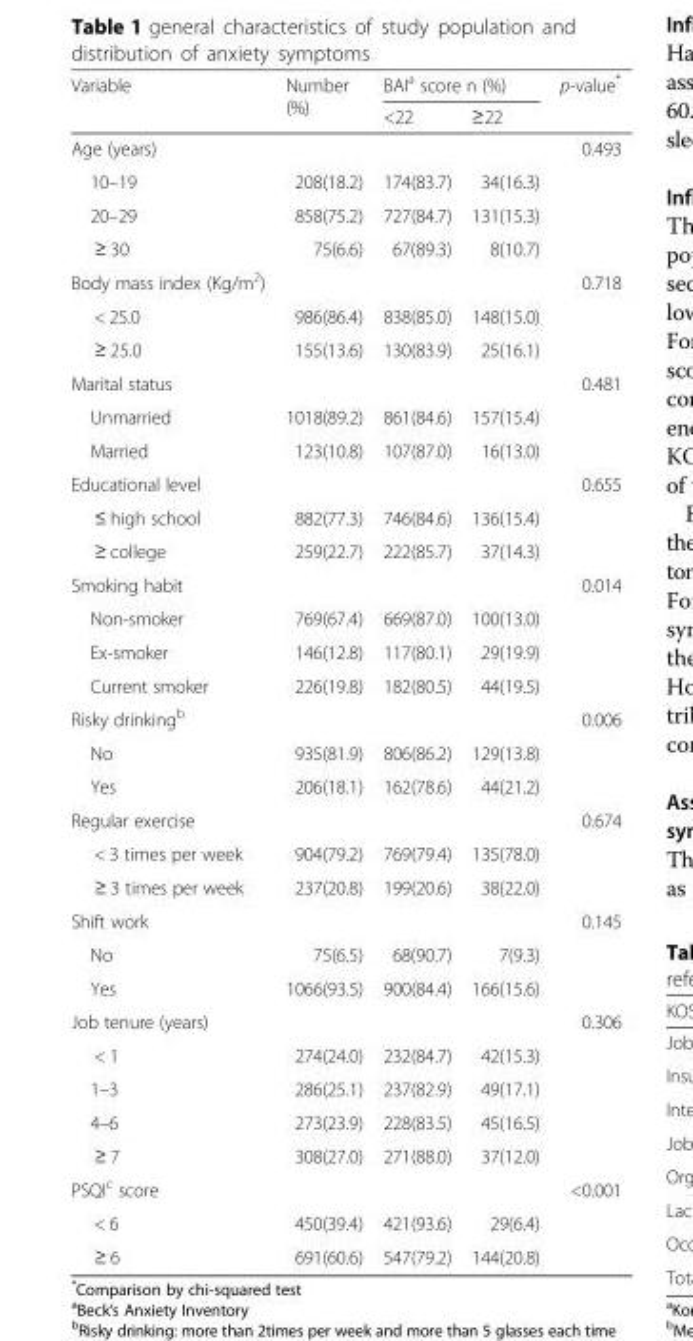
<table><thead><tr><td rowspan="2">Variable</td><td rowspan="2">Number (%)</td><td colspan="2">BAI<sup>a</sup> score n (%)</td><td rowspan="2">p-value*</td></tr><tr><td>&lt;22</td><td>≥22</td></tr></thead><tbody><tr><td>Age (years)</td><td></td><td></td><td></td><td>0.493</td></tr><tr><td>10–19</td><td>208(18.2)</td><td>174(83.7)</td><td>34(16.3)</td><td></td></tr><tr><td>20–29</td><td>858(75.2)</td><td>727(84.7)</td><td>131(15.3)</td><td></td></tr><tr><td>≥ 30</td><td>75(6.6)</td><td>67(89.3)</td><td>8(10.7)</td><td></td></tr><tr><td>Body mass index (Kg/m<sup>2</sup>)</td><td></td><td></td><td></td><td>0.718</td></tr><tr><td>&lt; 25.0</td><td>986(86.4)</td><td>838(85.0)</td><td>148(15.0)</td><td></td></tr><tr><td>≥ 25.0</td><td>155(13.6)</td><td>130(83.9)</td><td>25(16.1)</td><td></td></tr><tr><td>Marital status</td><td></td><td></td><td></td><td>0.481</td></tr><tr><td>Unmarried</td><td>1018(89.2)</td><td>861(84.6)</td><td>157(15.4)</td><td></td></tr><tr><td>Married</td><td>123(10.8)</td><td>107(87.0)</td><td>16(13.0)</td><td></td></tr><tr><td>Educational level</td><td></td><td></td><td></td><td>0.655</td></tr><tr><td>≤ high school</td><td>882(77.3)</td><td>746(84.6)</td><td>136(15.4)</td><td></td></tr><tr><td>≥ college</td><td>259(22.7)</td><td>222(85.7)</td><td>37(14.3)</td><td></td></tr><tr><td>Smoking habit</td><td></td><td></td><td></td><td>0.014</td></tr><tr><td>Non-smoker</td><td>769(67.4)</td><td>669(87.0)</td><td>100(13.0)</td><td></td></tr><tr><td>Ex-smoker</td><td>146(12.8)</td><td>117(80.1)</td><td>29(19.9)</td><td></td></tr><tr><td>Current smoker</td><td>226(19.8)</td><td>182(80.5)</td><td>44(19.5)</td><td></td></tr><tr><td>Risky drinking<sup>b</sup></td><td></td><td></td><td></td><td>0.006</td></tr><tr><td>No</td><td>935(81.9)</td><td>806(86.2)</td><td>129(13.8)</td><td></td></tr><tr><td>Yes</td><td>206(18.1)</td><td>162(78.6)</td><td>44(21.2)</td><td></td></tr><tr><td>Regular exercise</td><td></td><td></td><td></td><td>0.674</td></tr><tr><td>&lt; 3 times per week</td><td>904(79.2)</td><td>769(79.4)</td><td>135(78.0)</td><td></td></tr><tr><td>≥ 3 times per week</td><td>237(20.8)</td><td>199(20.6)</td><td>38(22.0)</td><td></td></tr><tr><td>Shift work</td><td></td><td></td><td></td><td>0.145</td></tr><tr><td>No</td><td>75(6.5)</td><td>68(90.7)</td><td>7(9.3)</td><td></td></tr><tr><td>Yes</td><td>1066(93.5)</td><td>900(84.4)</td><td>166(15.6)</td><td></td></tr><tr><td>Job tenure (years)</td><td></td><td></td><td></td><td>0.306</td></tr><tr><td>&lt; 1</td><td>274(24.0)</td><td>232(84.7)</td><td>42(15.3)</td><td></td></tr><tr><td>1–3</td><td>286(25.1)</td><td>237(82.9)</td><td>49(17.1)</td><td></td></tr><tr><td>4–6</td><td>273(23.9)</td><td>228(83.5)</td><td>45(16.5)</td><td></td></tr><tr><td>≥ 7</td><td>308(27.0)</td><td>271(88.0)</td><td>37(12.0)</td><td></td></tr><tr><td>PSQI<sup>c</sup> score</td><td></td><td></td><td></td><td>&lt;0.001</td></tr><tr><td>&lt; 6</td><td>450(39.4)</td><td>421(93.6)</td><td>29(6.4)</td><td></td></tr><tr><td>≥ 6</td><td>691(60.6)</td><td>547(79.2)</td><td>144(20.8)</td><td></td></tr></tbody></table>